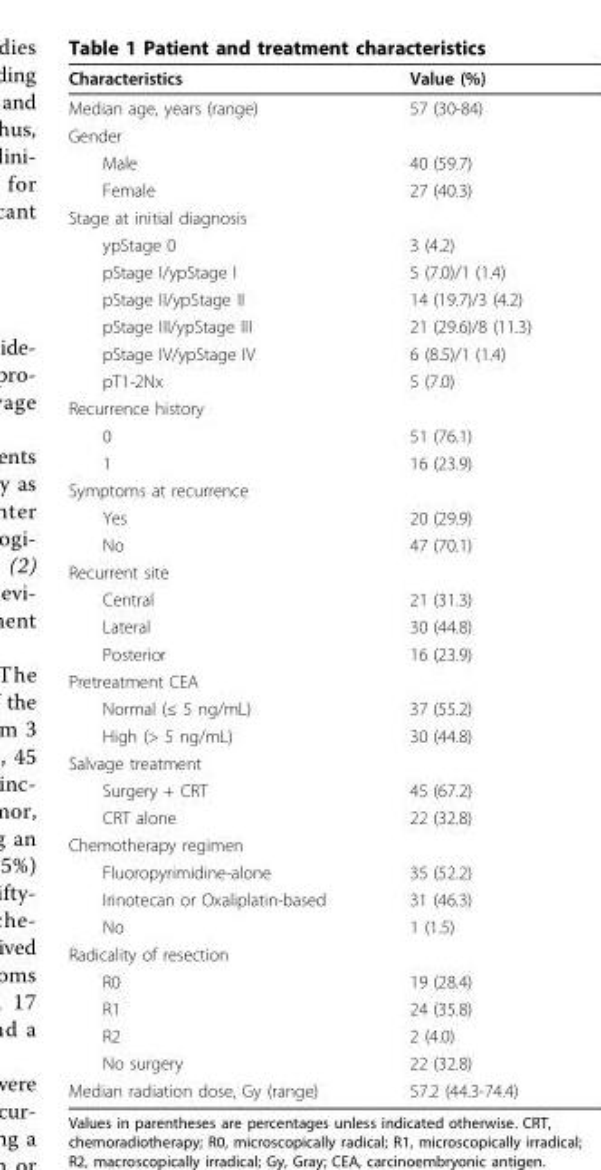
<table><thead><tr><td>Characteristics</td><td>Value (%)</td></tr></thead><tbody><tr><td>Median age, years (range)</td><td>57 (30-84)</td></tr><tr><td colspan="2">Gender</td></tr><tr><td>Male</td><td>40 (59.7)</td></tr><tr><td>Female</td><td>27 (40.3)</td></tr><tr><td colspan="2">Stage at initial diagnosis</td></tr><tr><td>ypStage 0</td><td>3 (4.2)</td></tr><tr><td>pStage I/ypStage I</td><td>5 (7.0)/1 (1.4)</td></tr><tr><td>pStage II/ypStage II</td><td>14 (19.7)/3 (4.2)</td></tr><tr><td>pStage III/ypStage III</td><td>21 (29.6)/8 (11.3)</td></tr><tr><td>pStage IV/ypStage IV</td><td>6 (8.5)/1 (1.4)</td></tr><tr><td>pT1-2Nx</td><td>5 (7.0)</td></tr><tr><td colspan="2">Recurrence history</td></tr><tr><td>0</td><td>51 (76.1)</td></tr><tr><td>1</td><td>16 (23.9)</td></tr><tr><td colspan="2">Symptoms at recurrence</td></tr><tr><td>Yes</td><td>20 (29.9)</td></tr><tr><td>No</td><td>47 (70.1)</td></tr><tr><td colspan="2">Recurrent site</td></tr><tr><td>Central</td><td>21 (31.3)</td></tr><tr><td>Lateral</td><td>30 (44.8)</td></tr><tr><td>Posterior</td><td>16 (23.9)</td></tr><tr><td colspan="2">Pretreatment CEA</td></tr><tr><td>Normal (≤ 5 ng/mL)</td><td>37 (55.2)</td></tr><tr><td>High (&gt; 5 ng/mL)</td><td>30 (44.8)</td></tr><tr><td colspan="2">Salvage treatment</td></tr><tr><td>Surgery + CRT</td><td>45 (67.2)</td></tr><tr><td>CRT alone</td><td>22 (32.8)</td></tr><tr><td colspan="2">Chemotherapy regimen</td></tr><tr><td>Fluoropyrimidine-alone</td><td>35 (52.2)</td></tr><tr><td>Irinotecan or Oxaliplatin-based</td><td>31 (46.3)</td></tr><tr><td>No</td><td>1 (1.5)</td></tr><tr><td colspan="2">Radicality of resection</td></tr><tr><td>R0</td><td>19 (28.4)</td></tr><tr><td>R1</td><td>24 (35.8)</td></tr><tr><td>R2</td><td>2 (4.0)</td></tr><tr><td>No surgery</td><td>22 (32.8)</td></tr><tr><td>Median radiation dose, Gy (range)</td><td>57.2 (44.3-74.4)</td></tr></tbody></table>